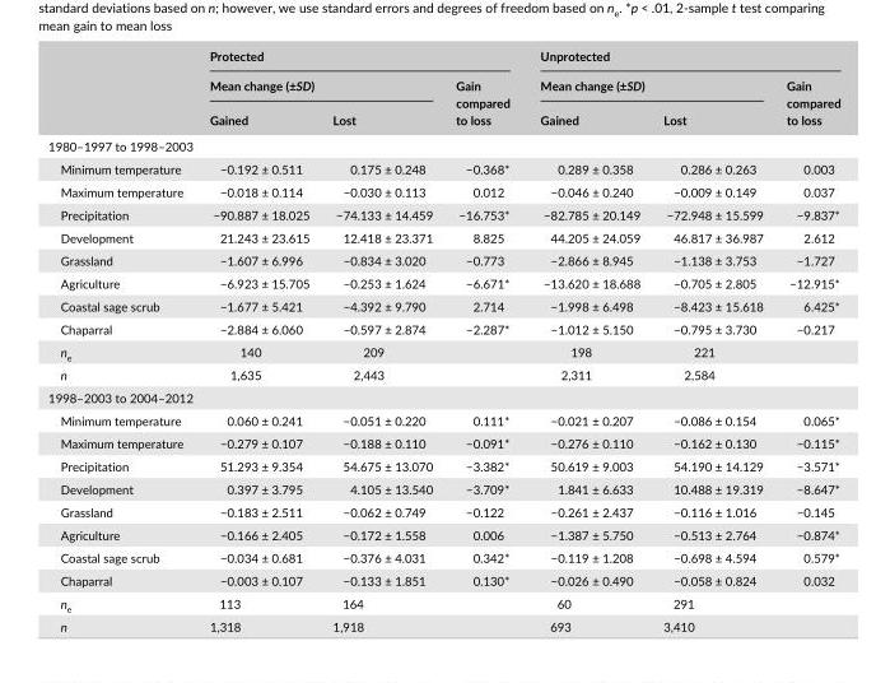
<table><thead><tr><td rowspan="3"></td><td colspan="3">Protected</td><td colspan="3">Unprotected</td></tr><tr><td colspan="2">Mean change (±SD)</td><td rowspan="2">Gain compared to loss</td><td colspan="2">Mean change (±SD)</td><td rowspan="2">Gain compared to loss</td></tr><tr><td>Gained</td><td>Lost</td><td>Gained</td><td>Lost</td></tr></thead><tbody><tr><td colspan="7">1980–1997 to 1998–2003</td></tr><tr><td>Minimum temperature</td><td>−0.192 ± 0.511</td><td>0.175 ± 0.248</td><td>−0.368*</td><td>0.289 ± 0.358</td><td>0.286 ± 0.263</td><td>0.003</td></tr><tr><td>Maximum temperature</td><td>−0.018 ± 0.114</td><td>−0.030 ± 0.113</td><td>0.012</td><td>−0.046 ± 0.240</td><td>−0.009 ± 0.149</td><td>0.037</td></tr><tr><td>Precipitation</td><td>−90.887 ± 18.025</td><td>−74.133 ± 14.459</td><td>−16.753*</td><td>−82.785 ± 20.149</td><td>−72.948 ± 15.599</td><td>−9.837*</td></tr><tr><td>Development</td><td>21.243 ± 23.615</td><td>12.418 ± 23.371</td><td>8.825</td><td>44.205 ± 24.059</td><td>46.817 ± 36.987</td><td>2.612</td></tr><tr><td>Grassland</td><td>−1.607 ± 6.996</td><td>−0.834 ± 3.020</td><td>−0.773</td><td>−2.866 ± 8.945</td><td>−1.138 ± 3.753</td><td>−1.727</td></tr><tr><td>Agriculture</td><td>−6.923 ± 15.705</td><td>−0.253 ± 1.624</td><td>−6.671*</td><td>−13.620 ± 18.688</td><td>−0.705 ± 2.805</td><td>−12.915*</td></tr><tr><td>Coastal sage scrub</td><td>−1.677 ± 5.421</td><td>−4.392 ± 9.790</td><td>2.714</td><td>−1.998 ± 6.498</td><td>−8.423 ± 15.618</td><td>6.425*</td></tr><tr><td>Chaparral</td><td>−2.884 ± 6.060</td><td>−0.597 ± 2.874</td><td>−2.287*</td><td>−1.012 ± 5.150</td><td>−0.795 ± 3.730</td><td>−0.217</td></tr><tr><td>n<sub>e</sub></td><td>140</td><td>209</td><td></td><td>198</td><td>221</td><td></td></tr><tr><td>n</td><td>1,635</td><td>2,443</td><td></td><td>2,311</td><td>2,584</td><td></td></tr><tr><td colspan="7">1998–2003 to 2004–2012</td></tr><tr><td>Minimum temperature</td><td>0.060 ± 0.241</td><td>−0.051 ± 0.220</td><td>0.111*</td><td>−0.021 ± 0.207</td><td>−0.086 ± 0.154</td><td>0.065*</td></tr><tr><td>Maximum temperature</td><td>−0.279 ± 0.107</td><td>−0.188 ± 0.110</td><td>−0.091*</td><td>−0.276 ± 0.110</td><td>−0.162 ± 0.130</td><td>−0.115*</td></tr><tr><td>Precipitation</td><td>51.293 ± 9.354</td><td>54.675 ± 13.070</td><td>−3.382*</td><td>50.619 ± 9.003</td><td>54.190 ± 14.129</td><td>−3.571*</td></tr><tr><td>Development</td><td>0.397 ± 3.795</td><td>4.105 ± 13.540</td><td>−3.709*</td><td>1.841 ± 6.633</td><td>10.488 ± 19.319</td><td>−8.647*</td></tr><tr><td>Grassland</td><td>−0.183 ± 2.511</td><td>−0.062 ± 0.749</td><td>−0.122</td><td>−0.261 ± 2.437</td><td>−0.116 ± 1.016</td><td>−0.145</td></tr><tr><td>Agriculture</td><td>−0.166 ± 2.405</td><td>−0.172 ± 1.558</td><td>0.006</td><td>−1.387 ± 5.750</td><td>−0.513 ± 2.764</td><td>−0.874*</td></tr><tr><td>Coastal sage scrub</td><td>−0.034 ± 0.681</td><td>−0.376 ± 4.031</td><td>0.342*</td><td>−0.119 ± 1.208</td><td>−0.698 ± 4.594</td><td>0.579*</td></tr><tr><td>Chaparral</td><td>−0.003 ± 0.107</td><td>−0.133 ± 1.851</td><td>0.130*</td><td>−0.026 ± 0.490</td><td>−0.058 ± 0.824</td><td>0.032</td></tr><tr><td>n<sub>e</sub></td><td>113</td><td>164</td><td></td><td>60</td><td>291</td><td></td></tr><tr><td>n</td><td>1,318</td><td>1,918</td><td></td><td>693</td><td>3,410</td><td></td></tr></tbody></table>